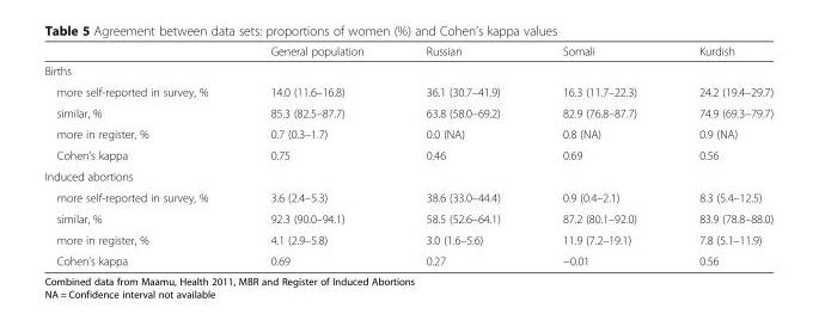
<table><thead><tr><td></td><td>General population</td><td>Russian</td><td>Somali</td><td>Kurdish</td></tr></thead><tbody><tr><td colspan="5">Births</td></tr><tr><td>more self-reported in survey, %</td><td>14.0 (11.6–16.8)</td><td>36.1 (30.7–41.9)</td><td>16.3 (11.7–22.3)</td><td>24.2 (19.4–29.7)</td></tr><tr><td>similar, %</td><td>85.3 (82.5–87.7)</td><td>63.8 (58.0–69.2)</td><td>82.9 (76.8–87.7)</td><td>74.9 (69.3–79.7)</td></tr><tr><td>more in register, %</td><td>0.7 (0.3–1.7)</td><td>0.0 (NA)</td><td>0.8 (NA)</td><td>0.9 (NA)</td></tr><tr><td>Cohen’s kappa</td><td>0.75</td><td>0.46</td><td>0.69</td><td>0.56</td></tr><tr><td colspan="5">Induced abortions</td></tr><tr><td>more self-reported in survey, %</td><td>3.6 (2.4–5.3)</td><td>38.6 (33.0–44.4)</td><td>0.9 (0.4–2.1)</td><td>8.3 (5.4–12.5)</td></tr><tr><td>similar, %</td><td>92.3 (90.0–94.1)</td><td>58.5 (52.6–64.1)</td><td>87.2 (80.1–92.0)</td><td>83.9 (78.8–88.0)</td></tr><tr><td>more in register, %</td><td>4.1 (2.9–5.8)</td><td>3.0 (1.6–5.6)</td><td>11.9 (7.2–19.1)</td><td>7.8 (5.1–11.9)</td></tr><tr><td>Cohen’s kappa</td><td>0.69</td><td>0.27</td><td>−0.01</td><td>0.56</td></tr></tbody></table>